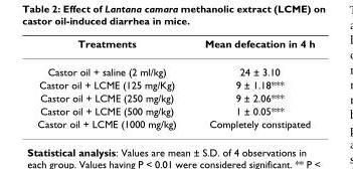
<table><thead><tr><td>Treatments</td><td>Mean defecation in 4 h</td></tr></thead><tbody><tr><td>Castor oil + saline (2 ml/kg)</td><td>24 ± 3.10</td></tr><tr><td>Castor oil + LCME (125 mg/Kg)</td><td>9 ± 1.18***</td></tr><tr><td>Castor oil + LCME (250 mg/kg)</td><td>9 ± 2.06***</td></tr><tr><td>Castor oil + LCME (500 mg/kg)</td><td>1 ± 0.05***</td></tr><tr><td>Castor oil + LCME (1000 mg/kg)</td><td>Completely constipated</td></tr></tbody></table>